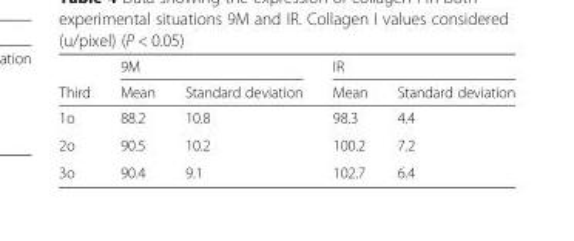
<table><thead><tr><td rowspan="2">Third</td><td colspan="2">9M</td><td colspan="2">IR</td></tr><tr><td>Mean</td><td>Standard deviation</td><td>Mean</td><td>Standard deviation</td></tr></thead><tbody><tr><td>1o</td><td>88.2</td><td>10.8</td><td>98.3</td><td>4.4</td></tr><tr><td>2o</td><td>90.5</td><td>10.2</td><td>100.2</td><td>7.2</td></tr><tr><td>3o</td><td>90.4</td><td>9.1</td><td>102.7</td><td>6.4</td></tr></tbody></table>